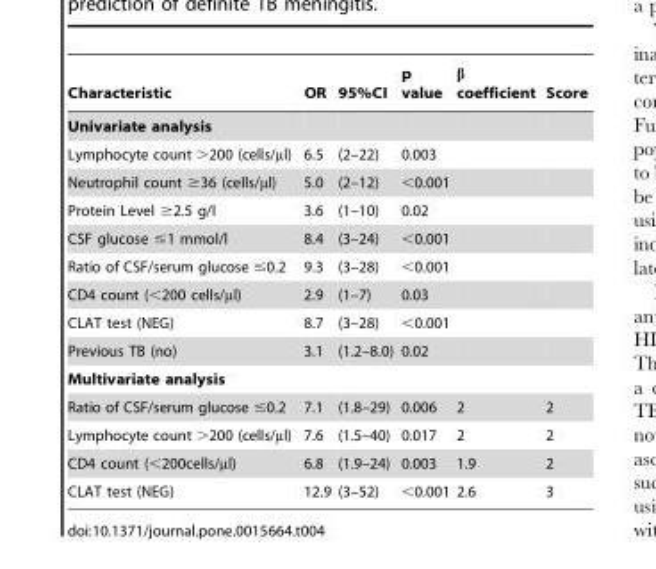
<table><thead><tr><td>Characteristic</td><td>OR</td><td>95%CI</td><td>p value</td><td>β coefficient</td><td>Score</td></tr></thead><tbody><tr><td colspan="6">Univariate analysis</td></tr><tr><td>Lymphocyte count &gt;200 (cells/µl)</td><td>6.5</td><td>(2–22)</td><td>0.003</td><td></td><td></td></tr><tr><td>Neutrophil count ≥36 (cells/µl)</td><td>5.0</td><td>(2–12)</td><td>&lt;0.001</td><td></td><td></td></tr><tr><td>Protein Level ≥2.5 g/l</td><td>3.6</td><td>(1–10)</td><td>0.02</td><td></td><td></td></tr><tr><td>CSF glucose ≤1 mmol/l</td><td>8.4</td><td>(3–24)</td><td>&lt;0.001</td><td></td><td></td></tr><tr><td>Ratio of CSF/serum glucose ≤0.2</td><td>9.3</td><td>(3–28)</td><td>&lt;0.001</td><td></td><td></td></tr><tr><td>CD4 count (&lt;200 cells/µl)</td><td>2.9</td><td>(1–7)</td><td>0.03</td><td></td><td></td></tr><tr><td>CLAT test (NEG)</td><td>8.7</td><td>(3–28)</td><td>&lt;0.001</td><td></td><td></td></tr><tr><td>Previous TB (no)</td><td>3.1</td><td>(1.2–8.0)</td><td>0.02</td><td></td><td></td></tr><tr><td colspan="6">Multivariate analysis</td></tr><tr><td>Ratio of CSF/serum glucose ≤0.2</td><td>7.1</td><td>(1.8–29)</td><td>0.006</td><td>2</td><td>2</td></tr><tr><td>Lymphocyte count &gt;200 (cells/µl)</td><td>7.6</td><td>(1.5–40)</td><td>0.017</td><td>2</td><td>2</td></tr><tr><td>CD4 count (&lt;200cells/µl)</td><td>6.8</td><td>(1.9–24)</td><td>0.003</td><td>1.9</td><td>2</td></tr><tr><td>CLAT test (NEG)</td><td>12.9</td><td>(3–52)</td><td>&lt;0.001</td><td>2.6</td><td>3</td></tr></tbody></table>